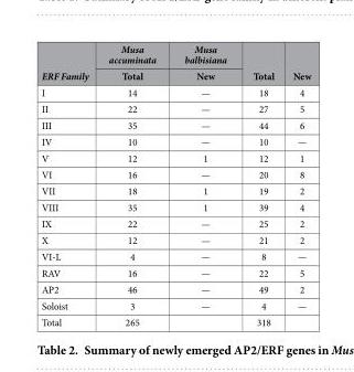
<table><thead><tr><td rowspan="2">ERF Family</td><td rowspan="2">Musa accuminata Total</td><td rowspan="2">Musa balbisiana New</td><td rowspan="2">Total</td><td rowspan="2">New</td></tr><tr></tr></thead><tbody><tr><td>I</td><td>14</td><td>—</td><td>18</td><td>4</td></tr><tr><td>II</td><td>22</td><td>—</td><td>27</td><td>5</td></tr><tr><td>III</td><td>35</td><td>—</td><td>44</td><td>6</td></tr><tr><td>IV</td><td>10</td><td>—</td><td>10</td><td>—</td></tr><tr><td>V</td><td>12</td><td>1</td><td>12</td><td>1</td></tr><tr><td>VI</td><td>16</td><td>—</td><td>20</td><td>8</td></tr><tr><td>VII</td><td>18</td><td>1</td><td>19</td><td>2</td></tr><tr><td>VIII</td><td>35</td><td>1</td><td>39</td><td>4</td></tr><tr><td>IX</td><td>22</td><td>—</td><td>25</td><td>2</td></tr><tr><td>X</td><td>12</td><td>—</td><td>21</td><td>2</td></tr><tr><td>VI-L</td><td>4</td><td>—</td><td>8</td><td>—</td></tr><tr><td>RAV</td><td>16</td><td>—</td><td>22</td><td>5</td></tr><tr><td>AP2</td><td>46</td><td>—</td><td>49</td><td>2</td></tr><tr><td>Soloist</td><td>3</td><td>—</td><td>4</td><td>—</td></tr><tr><td>Total</td><td>265</td><td></td><td>318</td><td></td></tr></tbody></table>